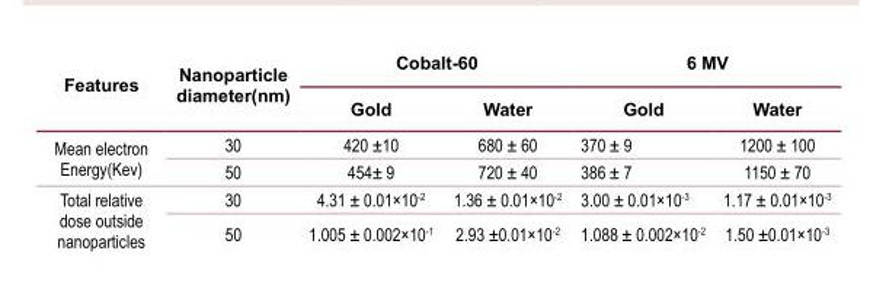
<table><thead><tr><td rowspan="2">Features</td><td rowspan="2">Nanoparticle diameter(nm)</td><td colspan="2">Cobalt-60</td><td colspan="2">6 MV</td></tr><tr><td>Gold</td><td>Water</td><td>Gold</td><td>Water</td></tr></thead><tbody><tr><td rowspan="2">Mean electron Energy(Kev)</td><td>30</td><td>420 ±10</td><td>680 ± 60</td><td>370 ± 9</td><td>1200 ± 100</td></tr><tr><td>50</td><td>454± 9</td><td>720 ± 40</td><td>386 ± 7</td><td>1150 ± 70</td></tr><tr><td rowspan="2">Total relative dose outside nanoparticles</td><td>30</td><td>4.31 ± 0.01×10<sup>-2</sup></td><td>1.36 ± 0.01×10<sup>-2</sup></td><td>3.00 ± 0.01×10<sup>-3</sup></td><td>1.17 ± 0.01×10<sup>-3</sup></td></tr><tr><td>50</td><td>1.005 ± 0.002×10<sup>-1</sup></td><td>2.93 ±0.01×10<sup>-2</sup></td><td>1.088 ± 0.002×10<sup>-2</sup></td><td>1.50 ±0.01×10<sup>-3</sup></td></tr></tbody></table>